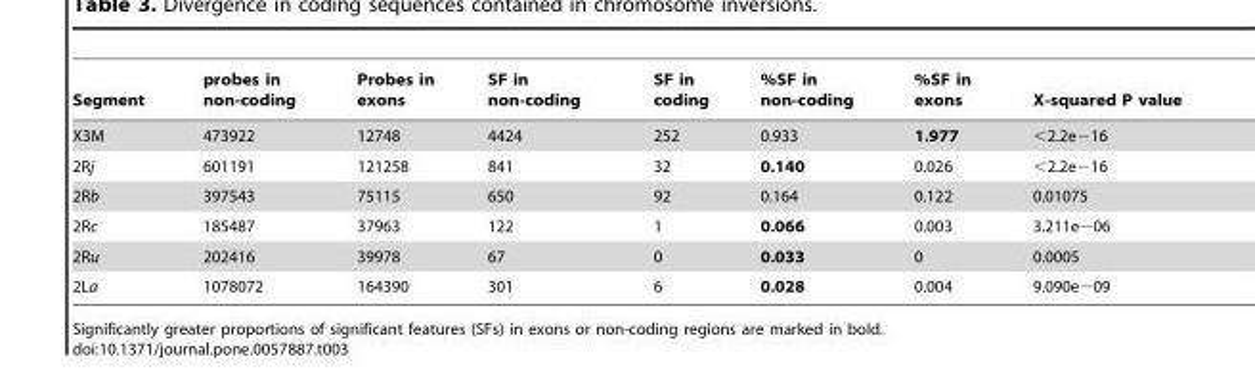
<table><thead><tr><td>Segment</td><td>probes in non-coding</td><td>Probes in exons</td><td>SF in non-coding</td><td>SF in coding</td><td>%SF in non-coding</td><td>%SF in exons</td><td>X-squared P value</td></tr></thead><tbody><tr><td>X3M</td><td>473922</td><td>12748</td><td>4424</td><td>252</td><td>0.933</td><td>1.977</td><td>&lt;2.2e−16</td></tr><tr><td>2Rj</td><td>601191</td><td>121258</td><td>841</td><td>32</td><td>0.140</td><td>0.026</td><td>&lt;2.2e−16</td></tr><tr><td>2Rb</td><td>397543</td><td>75115</td><td>650</td><td>92</td><td>0.164</td><td>0.122</td><td>0.01075</td></tr><tr><td>2Rc</td><td>185487</td><td>37963</td><td>122</td><td>1</td><td>0.066</td><td>0.003</td><td>3.211e−06</td></tr><tr><td>2Ru</td><td>202416</td><td>39978</td><td>67</td><td>0</td><td>0.033</td><td>0</td><td>0.0005</td></tr><tr><td>2La</td><td>1078072</td><td>164390</td><td>301</td><td>6</td><td>0.028</td><td>0.004</td><td>9.090e−09</td></tr></tbody></table>